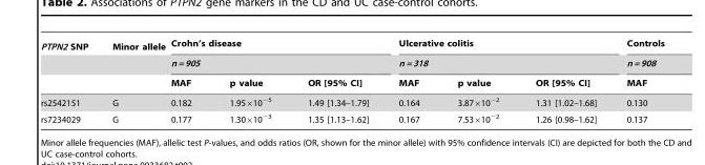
<table><thead><tr><td rowspan="3">PTPN2 SNP</td><td rowspan="3">Minor allele</td><td rowspan="2" colspan="3">Crohn’s disease n = 905</td><td rowspan="2" colspan="3">Ulcerative colitis n = 318</td><td rowspan="3">Controls n = 908 MAF</td></tr><tr></tr><tr><td>MAF</td><td>p value</td><td>OR [95% CI]</td><td>MAF</td><td>p value</td><td>OR [95% CI]</td></tr></thead><tbody><tr><td>rs2542151</td><td>G</td><td>0.182</td><td>1.95×10<sup>−5</sup></td><td>1.49 [1.34–1.79]</td><td>0.164</td><td>3.87×10<sup>−2</sup></td><td>1.31 [1.02–1.68]</td><td>0.130</td></tr><tr><td>rs7234029</td><td>G</td><td>0.177</td><td>1.30×10<sup>−3</sup></td><td>1.35 [1.13–1.62]</td><td>0.167</td><td>7.53×10<sup>−2</sup></td><td>1.26 [0.98–1.62]</td><td>0.137</td></tr></tbody></table>